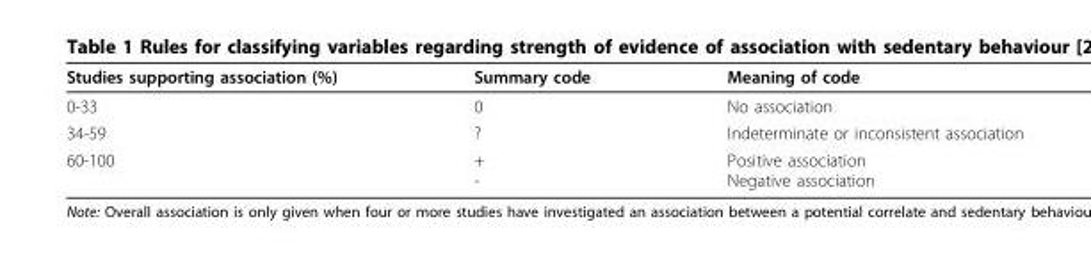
<table><thead><tr><td>Studies supporting association (%)</td><td>Summary code</td><td>Meaning of code</td></tr></thead><tbody><tr><td>0-33</td><td>0</td><td>No association</td></tr><tr><td>34-59</td><td>?</td><td>Indeterminate or inconsistent association</td></tr><tr><td>60-100</td><td>+ -</td><td>Positive association Negative association</td></tr></tbody></table>